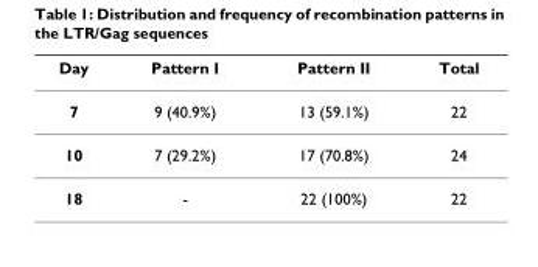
<table><thead><tr><td>Day</td><td>Pattern I</td><td>Pattern II</td><td>Total</td></tr></thead><tbody><tr><td>7</td><td>9 (40.9%)</td><td>13 (59.1%)</td><td>22</td></tr><tr><td>10</td><td>7 (29.2%)</td><td>17 (70.8%)</td><td>24</td></tr><tr><td>18</td><td>-</td><td>22 (100%)</td><td>22</td></tr></tbody></table>